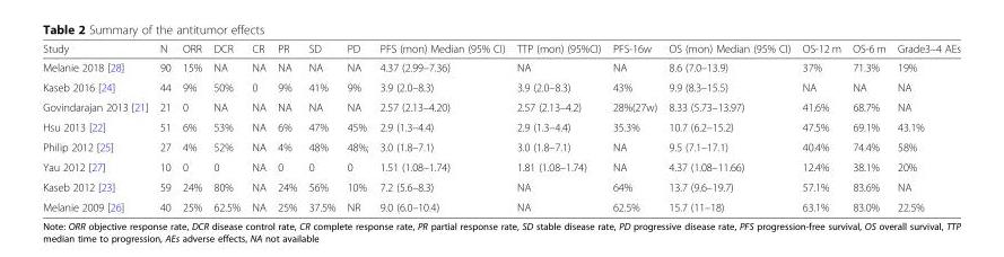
<table><thead><tr><td>Study</td><td>N</td><td>ORR</td><td>DCR</td><td>CR</td><td>PR</td><td>SD</td><td>PD</td><td>PFS (mon) Median (95% CI)</td><td>TTP (mon) (95%CI)</td><td>PFS-16w</td><td>OS (mon) Median (95% CI)</td><td>OS-12 m</td><td>OS-6 m</td><td>Grade3–4 AEs</td></tr></thead><tbody><tr><td>Melanie 2018 [28]</td><td>90</td><td>15%</td><td>NA</td><td>NA</td><td>NA</td><td>NA</td><td>NA</td><td>4.37 (2.99–7.36)</td><td>NA</td><td>NA</td><td>8.6 (7.0–13.9)</td><td>37%</td><td>71.3%</td><td>19%</td></tr><tr><td>Kaseb 2016 [24]</td><td>44</td><td>9%</td><td>50%</td><td>0</td><td>9%</td><td>41%</td><td>9%</td><td>3.9 (2.0–8.3)</td><td>3.9 (2.0–8.3)</td><td>43%</td><td>9.9 (8.3–15.5)</td><td>NA</td><td>NA</td><td>NA</td></tr><tr><td>Govindarajan 2013 [21]</td><td>21</td><td>0</td><td>NA</td><td>NA</td><td>NA</td><td>NA</td><td>NA</td><td>2.57 (2.13–4.20)</td><td>2.57 (2.13–4.2)</td><td>28%(27w)</td><td>8.33 (5.73–13.97)</td><td>41.6%</td><td>68.7%</td><td>NA</td></tr><tr><td>Hsu 2013 [22]</td><td>51</td><td>6%</td><td>53%</td><td>NA</td><td>6%</td><td>47%</td><td>45%</td><td>2.9 (1.3–4.4)</td><td>2.9 (1.3–4.4)</td><td>35.3%</td><td>10.7 (6.2–15.2)</td><td>47.5%</td><td>69.1%</td><td>43.1%</td></tr><tr><td>Philip 2012 [25]</td><td>27</td><td>4%</td><td>52%</td><td>NA</td><td>4%</td><td>48%</td><td>48%;</td><td>3.0 (1.8–7.1)</td><td>3.0 (1.8–7.1)</td><td>NA</td><td>9.5 (7.1–17.1)</td><td>40.4%</td><td>74.4%</td><td>58%</td></tr><tr><td>Yau 2012 [27]</td><td>10</td><td>0</td><td>0</td><td>NA</td><td>0</td><td>0</td><td>0</td><td>1.51 (1.08–1.74)</td><td>1.81 (1.08–1.74)</td><td>NA</td><td>4.37 (1.08–11.66)</td><td>12.4%</td><td>38.1%</td><td>20%</td></tr><tr><td>Kaseb 2012 [23]</td><td>59</td><td>24%</td><td>80%</td><td>NA</td><td>24%</td><td>56%</td><td>10%</td><td>7.2 (5.6–8.3)</td><td>NA</td><td>64%</td><td>13.7 (9.6–19.7)</td><td>57.1%</td><td>83.6%</td><td>NA</td></tr><tr><td>Melanie 2009 [26]</td><td>40</td><td>25%</td><td>62.5%</td><td>NA</td><td>25%</td><td>37.5%</td><td>NR</td><td>9.0 (6.0–10.4)</td><td>NA</td><td>62.5%</td><td>15.7 (11–18)</td><td>63.1%</td><td>83.0%</td><td>22.5%</td></tr></tbody></table>